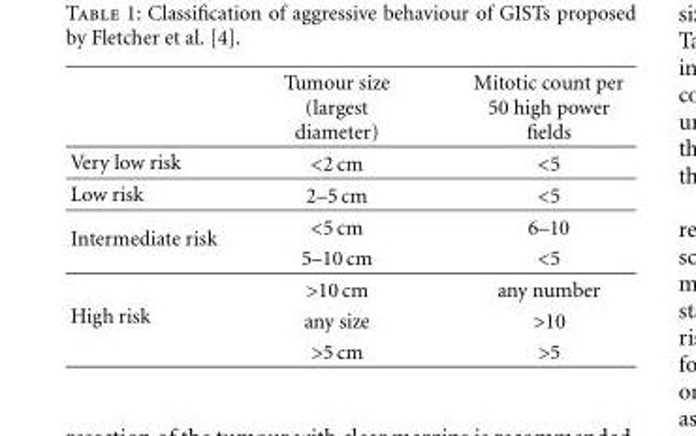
<table><thead><tr><td></td><td>Tumour size (largest diameter)</td><td>Mitotic count per 50 high power fields</td></tr></thead><tbody><tr><td>Very low risk</td><td>&lt;2 cm</td><td>&lt;5</td></tr><tr><td>Low risk</td><td>2–5 cm</td><td>&lt;5</td></tr><tr><td rowspan="2">Intermediate risk</td><td>&lt;5 cm</td><td>6–10</td></tr><tr><td>5–10 cm</td><td>&lt;5</td></tr><tr><td rowspan="3">High risk</td><td>&gt;10 cm</td><td>any number</td></tr><tr><td>any size</td><td>&gt;10</td></tr><tr><td>&gt;5 cm</td><td>&gt;5</td></tr></tbody></table>